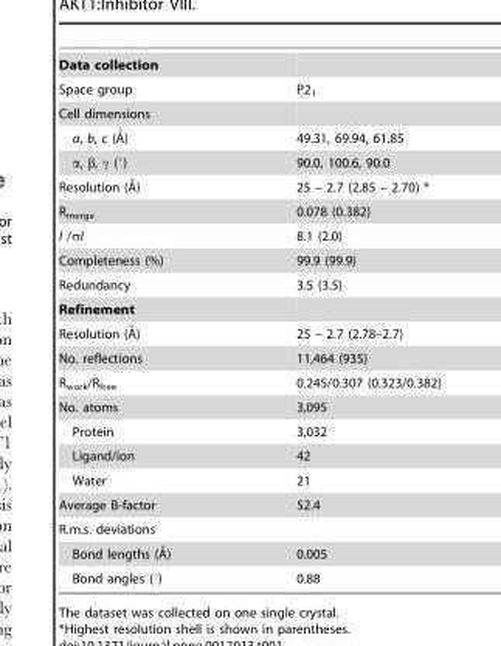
<table><tbody><tr><td colspan="2">Data collection</td></tr><tr><td>Space group</td><td>P2<sub>1</sub></td></tr><tr><td colspan="2">Cell dimensions</td></tr><tr><td>a, b, c (A˚)</td><td>49.31, 69.94, 61.85</td></tr><tr><td>α, β, γ (°)</td><td>90.0, 100.6, 90.0</td></tr><tr><td>Resolution (A˚)</td><td>25 – 2.7 (2.85 – 2.70) *</td></tr><tr><td>R<sub>merge</sub></td><td>0.078 (0.382)</td></tr><tr><td>I /σI</td><td>8.1 (2.0)</td></tr><tr><td>Completeness (%)</td><td>99.9 (99.9)</td></tr><tr><td>Redundancy</td><td>3.5 (3.5)</td></tr><tr><td colspan="2">Refinement</td></tr><tr><td>Resolution (A˚)</td><td>25 – 2.7 (2.78–2.7)</td></tr><tr><td>No. reflections</td><td>11,464 (935)</td></tr><tr><td>R<sub>work</sub>/R<sub>free</sub></td><td>0.245/0.307 (0.323/0.382)</td></tr><tr><td>No. atoms</td><td>3,095</td></tr><tr><td>Protein</td><td>3,032</td></tr><tr><td>Ligand/ion</td><td>42</td></tr><tr><td>Water</td><td>21</td></tr><tr><td>Average B-factor</td><td>52.4</td></tr><tr><td colspan="2">R.m.s. deviations</td></tr><tr><td>Bond lengths (A˚)</td><td>0.005</td></tr><tr><td>Bond angles (°)</td><td>0.88</td></tr></tbody></table>